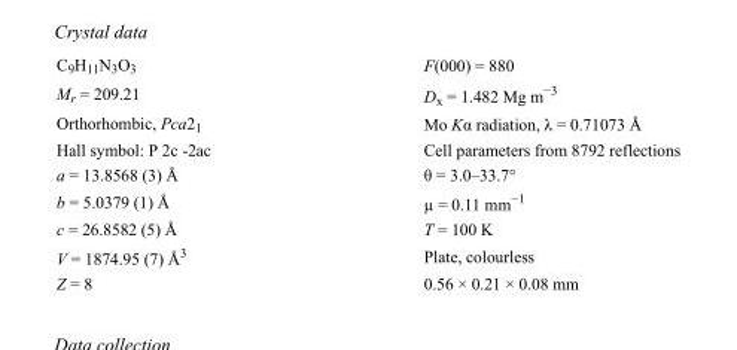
<table><tbody><tr><td>C<sub>9</sub>H<sub>11</sub>N<sub>3</sub>O<sub>3</sub></td><td>F(000) = 880</td></tr><tr><td>M<sub>r</sub> = 209.21</td><td>D<sub>x</sub> = 1.482 Mg m<sup>−3</sup></td></tr><tr><td>Orthorhombic, Pca2<sub>1</sub></td><td>Mo Kα radiation, λ = 0.71073 Å</td></tr><tr><td>Hall symbol: P 2c -2ac</td><td>Cell parameters from 8792 reflections</td></tr><tr><td>a = 13.8568 (3) Å</td><td>θ = 3.0–33.7°</td></tr><tr><td>b = 5.0379 (1) Å</td><td>µ = 0.11 mm<sup>−1</sup></td></tr><tr><td>c = 26.8582 (5) Å</td><td>T = 100 K</td></tr><tr><td>V = 1874.95 (7) Å<sup>3</sup></td><td>Plate, colourless</td></tr><tr><td>Z = 8</td><td>0.56 × 0.21 × 0.08 mm</td></tr></tbody></table>